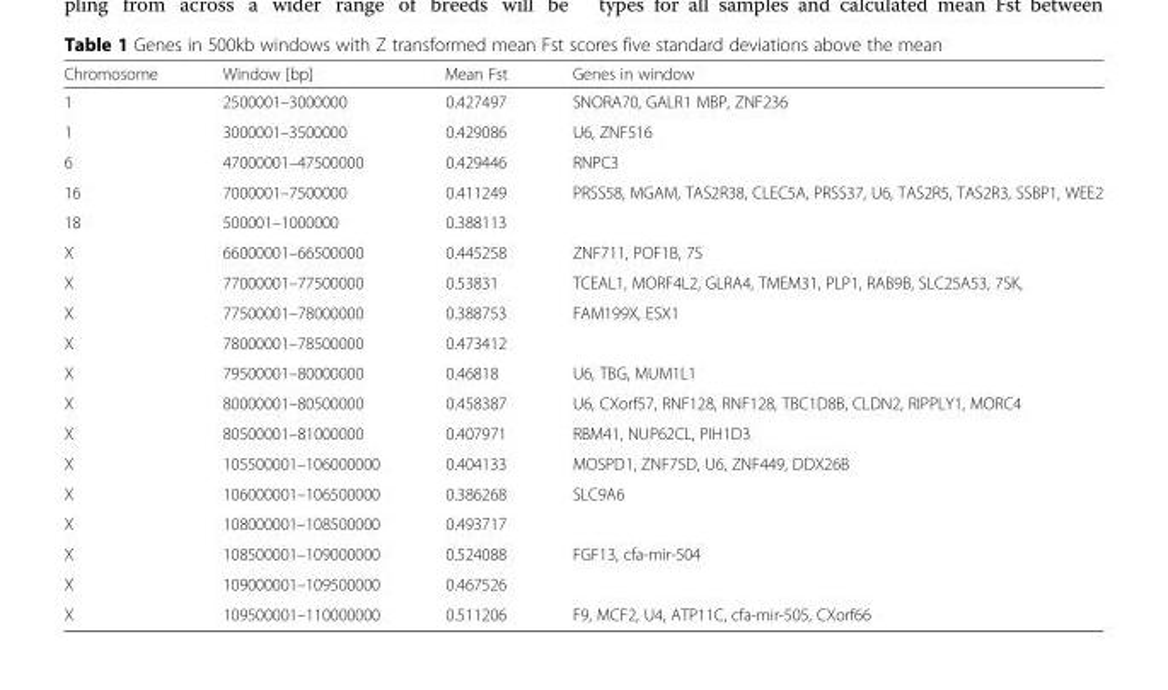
<table><thead><tr><td>Chromosome</td><td>Window [bp]</td><td>Mean Fst</td><td>Genes in window</td></tr></thead><tbody><tr><td>1</td><td>2500001–3000000</td><td>0.427497</td><td>SNORA70, GALR1 MBP, ZNF236</td></tr><tr><td>1</td><td>3000001–3500000</td><td>0.429086</td><td>U6, ZNF516</td></tr><tr><td>6</td><td>47000001–47500000</td><td>0.429446</td><td>RNPC3</td></tr><tr><td>16</td><td>7000001–7500000</td><td>0.411249</td><td>PRSS58, MGAM, TAS2R38, CLEC5A, PRSS37, U6, TAS2R5, TAS2R3, SSBP1, WEE2</td></tr><tr><td>18</td><td>500001–1000000</td><td>0.388113</td><td></td></tr><tr><td>X</td><td>66000001–66500000</td><td>0.445258</td><td>ZNF711, POF1B, 7S</td></tr><tr><td>X</td><td>77000001–77500000</td><td>0.53831</td><td>TCEAL1, MORF4L2, GLRA4, TMEM31, PLP1, RAB9B, SLC25A53, 7SK,</td></tr><tr><td>X</td><td>77500001–78000000</td><td>0.388753</td><td>FAM199X, ESX1</td></tr><tr><td>X</td><td>78000001–78500000</td><td>0.473412</td><td></td></tr><tr><td>X</td><td>79500001–80000000</td><td>0.46818</td><td>U6, TBG, MUM1L1</td></tr><tr><td>X</td><td>80000001–80500000</td><td>0.458387</td><td>U6, CXorf57, RNF128, RNF128, TBC1D8B, CLDN2, RIPPLY1, MORC4</td></tr><tr><td>X</td><td>80500001–81000000</td><td>0.407971</td><td>RBM41, NUP62CL, PIH1D3</td></tr><tr><td>X</td><td>105500001–106000000</td><td>0.404133</td><td>MOSPD1, ZNF75D, U6, ZNF449, DDX26B</td></tr><tr><td>X</td><td>106000001–106500000</td><td>0.386268</td><td>SLC9A6</td></tr><tr><td>X</td><td>108000001–108500000</td><td>0.493717</td><td></td></tr><tr><td>X</td><td>108500001–109000000</td><td>0.524088</td><td>FGF13, cfa-mir-504</td></tr><tr><td>X</td><td>109000001–109500000</td><td>0.467526</td><td></td></tr><tr><td>X</td><td>109500001–110000000</td><td>0.511206</td><td>F9, MCF2, U4, ATP11C, cfa-mir-505, CXorf66</td></tr></tbody></table>